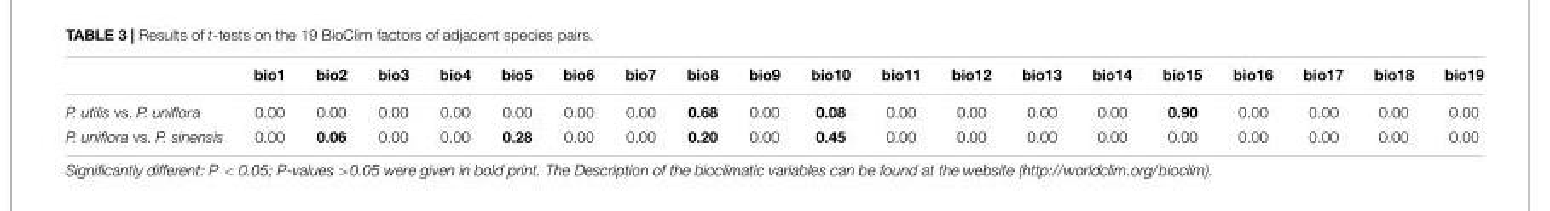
<table><thead><tr><td></td><td>bio1</td><td>bio2</td><td>bio3</td><td>bio4</td><td>bio5</td><td>bio6</td><td>bio7</td><td>bio8</td><td>bio9</td><td>bio10</td><td>bio11</td><td>bio12</td><td>bio13</td><td>bio14</td><td>bio15</td><td>bio16</td><td>bio17</td><td>bio18</td><td>bio19</td></tr></thead><tbody><tr><td>P. utilis vs. P. uniflora</td><td>0.00</td><td>0.00</td><td>0.00</td><td>0.00</td><td>0.00</td><td>0.00</td><td>0.00</td><td>0.68</td><td>0.00</td><td>0.08</td><td>0.00</td><td>0.00</td><td>0.00</td><td>0.00</td><td>0.90</td><td>0.00</td><td>0.00</td><td>0.00</td><td>0.00</td></tr><tr><td>P. uniflora vs. P. sinensis</td><td>0.00</td><td>0.06</td><td>0.00</td><td>0.00</td><td>0.28</td><td>0.00</td><td>0.00</td><td>0.20</td><td>0.00</td><td>0.45</td><td>0.00</td><td>0.00</td><td>0.00</td><td>0.00</td><td>0.00</td><td>0.00</td><td>0.00</td><td>0.00</td><td>0.00</td></tr></tbody></table>